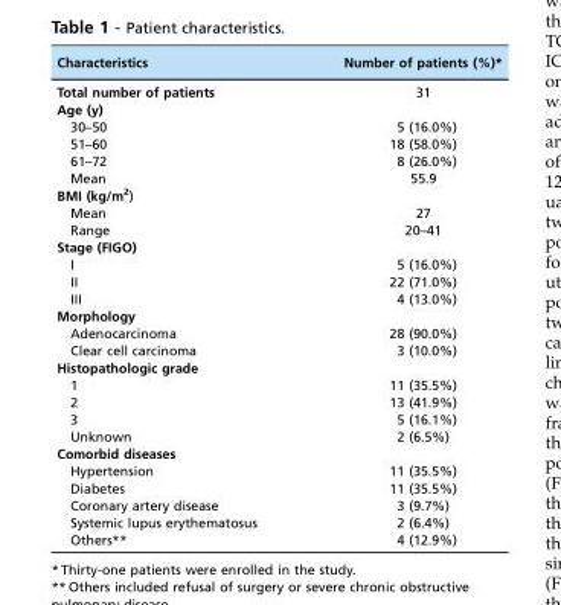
<table><thead><tr><td>Characteristics</td><td>Number of patients (%)*</td></tr></thead><tbody><tr><td>Total number of patients</td><td>31</td></tr><tr><td colspan="2">Age (y)</td></tr><tr><td>30–50</td><td>5 (16.0%)</td></tr><tr><td>51–60</td><td>18 (58.0%)</td></tr><tr><td>61–72</td><td>8 (26.0%)</td></tr><tr><td>Mean</td><td>55.9</td></tr><tr><td colspan="2">BMI (kg/m<sup>2</sup>)</td></tr><tr><td>Mean</td><td>27</td></tr><tr><td>Range</td><td>20–41</td></tr><tr><td colspan="2">Stage (FIGO)</td></tr><tr><td>I</td><td>5 (16.0%)</td></tr><tr><td>II</td><td>22 (71.0%)</td></tr><tr><td>III</td><td>4 (13.0%)</td></tr><tr><td colspan="2">Morphology</td></tr><tr><td>Adenocarcinoma</td><td>28 (90.0%)</td></tr><tr><td>Clear cell carcinoma</td><td>3 (10.0%)</td></tr><tr><td colspan="2">Histopathologic grade</td></tr><tr><td>1</td><td>11 (35.5%)</td></tr><tr><td>2</td><td>13 (41.9%)</td></tr><tr><td>3</td><td>5 (16.1%)</td></tr><tr><td>Unknown</td><td>2 (6.5%)</td></tr><tr><td colspan="2">Comorbid diseases</td></tr><tr><td>Hypertension</td><td>11 (35.5%)</td></tr><tr><td>Diabetes</td><td>11 (35.5%)</td></tr><tr><td>Coronary artery disease</td><td>3 (9.7%)</td></tr><tr><td>Systemic lupus erythematosus</td><td>2 (6.4%)</td></tr><tr><td>Others**</td><td>4 (12.9%)</td></tr></tbody></table>